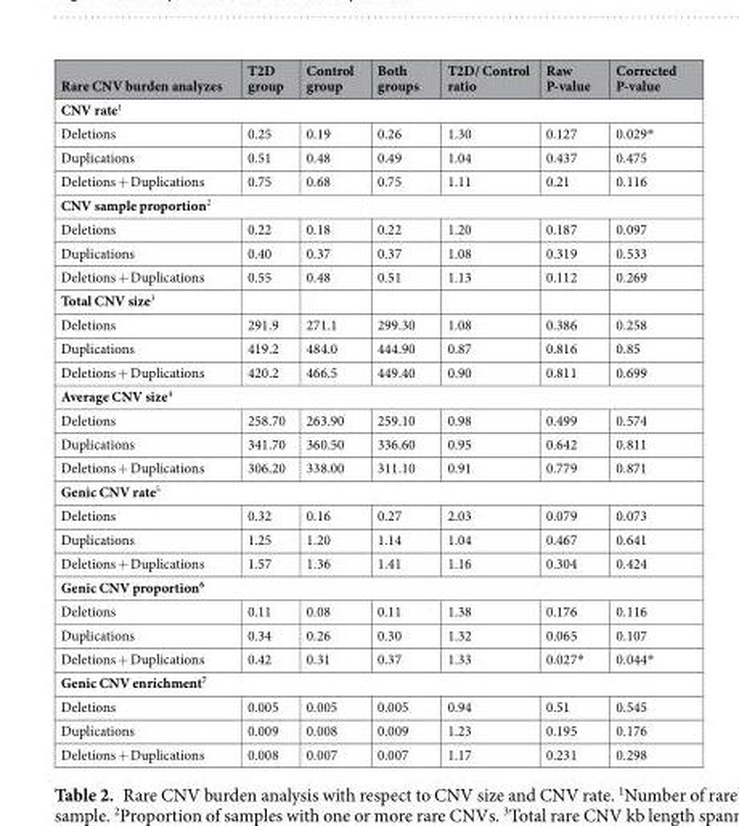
<table><thead><tr><td>Rare CNV burden analyzes</td><td>T2D group</td><td>Control group</td><td>Both groups</td><td>T2D/ Control ratio</td><td>Raw P-value</td><td>Corrected P-value</td></tr></thead><tbody><tr><td colspan="7">CNV rate<sup>1</sup></td></tr><tr><td>Deletions</td><td>0.25</td><td>0.19</td><td>0.26</td><td>1.30</td><td>0.127</td><td>0.029*</td></tr><tr><td>Duplications</td><td>0.51</td><td>0.48</td><td>0.49</td><td>1.04</td><td>0.437</td><td>0.475</td></tr><tr><td>Deletions + Duplications</td><td>0.75</td><td>0.68</td><td>0.75</td><td>1.11</td><td>0.21</td><td>0.116</td></tr><tr><td colspan="7">CNV sample proportion<sup>2</sup></td></tr><tr><td>Deletions</td><td>0.22</td><td>0.18</td><td>0.22</td><td>1.20</td><td>0.187</td><td>0.097</td></tr><tr><td>Duplications</td><td>0.40</td><td>0.37</td><td>0.37</td><td>1.08</td><td>0.319</td><td>0.533</td></tr><tr><td>Deletions + Duplications</td><td>0.55</td><td>0.48</td><td>0.51</td><td>1.13</td><td>0.112</td><td>0.269</td></tr><tr><td colspan="7">Total CNV size<sup>3</sup></td></tr><tr><td>Deletions</td><td>291.9</td><td>271.1</td><td>299.30</td><td>1.08</td><td>0.386</td><td>0.258</td></tr><tr><td>Duplications</td><td>419.2</td><td>484.0</td><td>444.90</td><td>0.87</td><td>0.816</td><td>0.85</td></tr><tr><td>Deletions + Duplications</td><td>420.2</td><td>466.5</td><td>449.40</td><td>0.90</td><td>0.811</td><td>0.699</td></tr><tr><td colspan="7">Average CNV size<sup>4</sup></td></tr><tr><td>Deletions</td><td>258.70</td><td>263.90</td><td>259.10</td><td>0.98</td><td>0.499</td><td>0.574</td></tr><tr><td>Duplications</td><td>341.70</td><td>360.50</td><td>336.60</td><td>0.95</td><td>0.642</td><td>0.811</td></tr><tr><td>Deletions + Duplications</td><td>306.20</td><td>338.00</td><td>311.10</td><td>0.91</td><td>0.779</td><td>0.871</td></tr><tr><td colspan="7">Genic CNV rate<sup>5</sup></td></tr><tr><td>Deletions</td><td>0.32</td><td>0.16</td><td>0.27</td><td>2.03</td><td>0.079</td><td>0.073</td></tr><tr><td>Duplications</td><td>1.25</td><td>1.20</td><td>1.14</td><td>1.04</td><td>0.467</td><td>0.641</td></tr><tr><td>Deletions + Duplications</td><td>1.57</td><td>1.36</td><td>1.41</td><td>1.16</td><td>0.304</td><td>0.424</td></tr><tr><td colspan="7">Genic CNV proportion<sup>6</sup></td></tr><tr><td>Deletions</td><td>0.11</td><td>0.08</td><td>0.11</td><td>1.38</td><td>0.176</td><td>0.116</td></tr><tr><td>Duplications</td><td>0.34</td><td>0.26</td><td>0.30</td><td>1.32</td><td>0.065</td><td>0.107</td></tr><tr><td>Deletions + Duplications</td><td>0.42</td><td>0.31</td><td>0.37</td><td>1.33</td><td>0.027*</td><td>0.044*</td></tr><tr><td colspan="7">Genic CNV enrichment<sup>7</sup></td></tr><tr><td>Deletions</td><td>0.005</td><td>0.005</td><td>0.005</td><td>0.94</td><td>0.51</td><td>0.545</td></tr><tr><td>Duplications</td><td>0.009</td><td>0.008</td><td>0.009</td><td>1.23</td><td>0.195</td><td>0.176</td></tr><tr><td>Deletions + Duplications</td><td>0.008</td><td>0.007</td><td>0.007</td><td>1.17</td><td>0.231</td><td>0.298</td></tr></tbody></table>